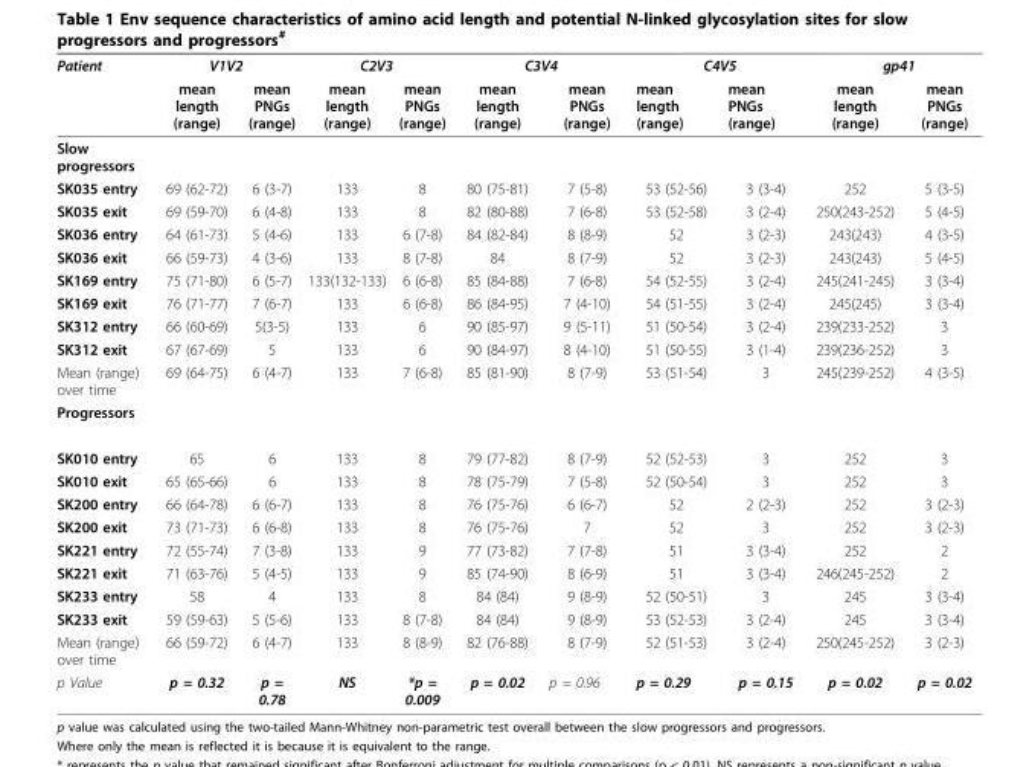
<table><thead><tr><td rowspan="2">Patient</td><td colspan="2">V1V2</td><td colspan="2">C2V3</td><td colspan="2">C3V4</td><td colspan="2">C4V5</td><td colspan="2">gp41</td></tr><tr><td>mean length (range)</td><td>mean PNGs (range)</td><td>mean length (range)</td><td>mean PNGs (range)</td><td>mean length (range)</td><td>mean PNGs (range)</td><td>mean length (range)</td><td>mean PNGs (range)</td><td>mean length (range)</td><td>mean PNGs (range)</td></tr></thead><tbody><tr><td colspan="11">Slow progressors</td></tr><tr><td>SK035 entry</td><td>69 (62-72)</td><td>6 (3-7)</td><td>133</td><td>8</td><td>80 (75-81)</td><td>7 (5-8)</td><td>53 (52-56)</td><td>3 (3-4)</td><td>252</td><td>5 (3-5)</td></tr><tr><td>SK035 exit</td><td>69 (59-70)</td><td>6 (4-8)</td><td>133</td><td>8</td><td>82 (80-88)</td><td>7 (6-8)</td><td>53 (52-58)</td><td>3 (2-4)</td><td>250(243-252)</td><td>5 (4-5)</td></tr><tr><td>SK036 entry</td><td>64 (61-73)</td><td>5 (4-6)</td><td>133</td><td>6 (7-8)</td><td>84 (82-84)</td><td>8 (8-9)</td><td>52</td><td>3 (2-3)</td><td>243(243)</td><td>4 (3-5)</td></tr><tr><td>SK036 exit</td><td>66 (59-73)</td><td>4 (3-6)</td><td>133</td><td>8 (7-8)</td><td>84</td><td>8 (7-9)</td><td>52</td><td>3 (2-3)</td><td>243(243)</td><td>5 (4-5)</td></tr><tr><td>SK169 entry</td><td>75 (71-80)</td><td>6 (5-7)</td><td>133(132-133)</td><td>6 (6-8)</td><td>85 (84-88)</td><td>7 (6-8)</td><td>54 (52-55)</td><td>3 (2-4)</td><td>245(241-245)</td><td>3 (3-4)</td></tr><tr><td>SK169 exit</td><td>76 (71-77)</td><td>7 (6-7)</td><td>133</td><td>6 (6-8)</td><td>86 (84-95)</td><td>7 (4-10)</td><td>54 (51-55)</td><td>3 (2-4)</td><td>245(245)</td><td>3 (3-4)</td></tr><tr><td>SK312 entry</td><td>66 (60-69)</td><td>5(3-5)</td><td>133</td><td>6</td><td>90 (85-97)</td><td>9 (5-11)</td><td>51 (50-54)</td><td>3 (2-4)</td><td>239(233-252)</td><td>3</td></tr><tr><td>SK312 exit</td><td>67 (67-69)</td><td>5</td><td>133</td><td>6</td><td>90 (84-97)</td><td>8 (4-10)</td><td>51 (50-55)</td><td>3 (1-4)</td><td>239(236-252)</td><td>3</td></tr><tr><td>Mean (range) over time</td><td>69 (64-75)</td><td>6 (4-7)</td><td>133</td><td>7 (6-8)</td><td>85 (81-90)</td><td>8 (7-9)</td><td>53 (51-54)</td><td>3</td><td>245(239-252)</td><td>4 (3-5)</td></tr><tr><td colspan="11">Progressors</td></tr><tr><td>SK010 entry</td><td>65</td><td>6</td><td>133</td><td>8</td><td>79 (77-82)</td><td>8 (7-9)</td><td>52 (52-53)</td><td>3</td><td>252</td><td>3</td></tr><tr><td>SK010 exit</td><td>65 (65-66)</td><td>6</td><td>133</td><td>8</td><td>78 (75-79)</td><td>7 (5-8)</td><td>52 (50-54)</td><td>3</td><td>252</td><td>3</td></tr><tr><td>SK200 entry</td><td>66 (64-78)</td><td>6 (6-7)</td><td>133</td><td>8</td><td>76 (75-76)</td><td>6 (6-7)</td><td>52</td><td>2 (2-3)</td><td>252</td><td>3 (2-3)</td></tr><tr><td>SK200 exit</td><td>73 (71-73)</td><td>6 (6-8)</td><td>133</td><td>8</td><td>76 (75-76)</td><td>7</td><td>52</td><td>3</td><td>252</td><td>3 (2-3)</td></tr><tr><td>SK221 entry</td><td>72 (55-74)</td><td>7 (3-8)</td><td>133</td><td>9</td><td>77 (73-82)</td><td>7 (7-8)</td><td>51</td><td>3 (3-4)</td><td>252</td><td>2</td></tr><tr><td>SK221 exit</td><td>71 (63-76)</td><td>5 (4-5)</td><td>133</td><td>9</td><td>85 (74-90)</td><td>8 (6-9)</td><td>51</td><td>3 (3-4)</td><td>246(245-252)</td><td>2</td></tr><tr><td>SK233 entry</td><td>58</td><td>4</td><td>133</td><td>8</td><td>84 (84)</td><td>9 (8-9)</td><td>52 (50-51)</td><td>3</td><td>245</td><td>3 (3-4)</td></tr><tr><td>SK233 exit</td><td>59 (59-63)</td><td>5 (5-6)</td><td>133</td><td>8 (7-8)</td><td>84 (84)</td><td>9 (8-9)</td><td>53 (52-53)</td><td>3 (2-4)</td><td>245</td><td>3 (3-4)</td></tr><tr><td>Mean (range) over time</td><td>66 (59-72)</td><td>6 (4-7)</td><td>133</td><td>8 (8-9)</td><td>82 (76-88)</td><td>8 (7-9)</td><td>52 (51-53)</td><td>3 (2-4)</td><td>250(245-252)</td><td>3 (2-3)</td></tr><tr><td>p Value</td><td>p = 0.32</td><td>p = 0.78</td><td>NS</td><td>*p = 0.009</td><td>p = 0.02</td><td>p = 0.96</td><td>p = 0.29</td><td>p = 0.15</td><td>p = 0.02</td><td>p = 0.02</td></tr></tbody></table>